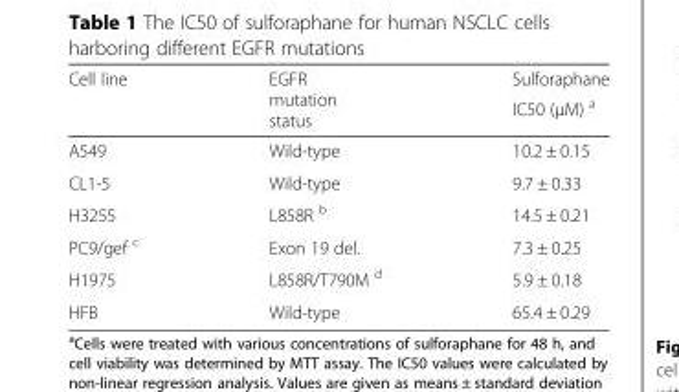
<table><thead><tr><td rowspan="2">Cell line</td><td rowspan="2">EGFR mutation status</td><td rowspan="2">Sulforaphane IC50 (μM) <sup>a</sup></td></tr><tr></tr></thead><tbody><tr><td>A549</td><td>Wild-type</td><td>10.2 ± 0.15</td></tr><tr><td>CL1-5</td><td>Wild-type</td><td>9.7 ± 0.33</td></tr><tr><td>H3255</td><td>L858R <sup>b</sup></td><td>14.5 ± 0.21</td></tr><tr><td>PC9/gef <sup>c</sup></td><td>Exon 19 del.</td><td>7.3 ± 0.25</td></tr><tr><td>H1975</td><td>L858R/T790M <sup>d</sup></td><td>5.9 ± 0.18</td></tr><tr><td>HFB</td><td>Wild-type</td><td>65.4 ± 0.29</td></tr></tbody></table>